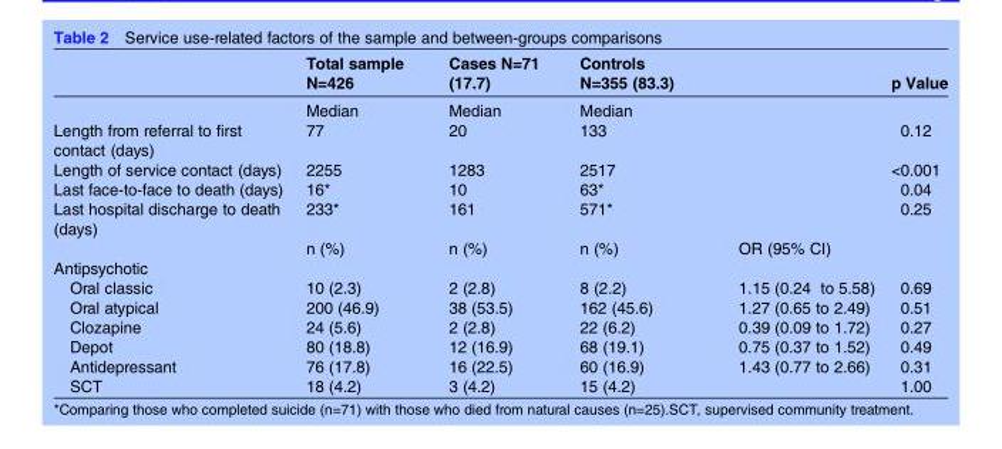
<table><thead><tr><td></td><td>Total sample N=426</td><td>Cases N=71 (17.7)</td><td>Controls N=355 (83.3)</td><td></td><td>p Value</td></tr></thead><tbody><tr><td></td><td>Median</td><td>Median</td><td>Median</td><td></td><td></td></tr><tr><td>Length from referral to first contact (days)</td><td>77</td><td>20</td><td>133</td><td></td><td>0.12</td></tr><tr><td>Length of service contact (days)</td><td>2255</td><td>1283</td><td>2517</td><td></td><td>&lt;0.001</td></tr><tr><td>Last face-to-face to death (days)</td><td>16*</td><td>10</td><td>63*</td><td></td><td>0.04</td></tr><tr><td rowspan="2">Last hospital discharge to death (days)</td><td>233*</td><td>161</td><td>571*</td><td></td><td>0.25</td></tr><tr><td>n (%)</td><td>n (%)</td><td>n (%)</td><td>OR (95% CI)</td><td></td></tr><tr><td colspan="6">Antipsychotic</td></tr><tr><td>Oral classic</td><td>10 (2.3)</td><td>2 (2.8)</td><td>8 (2.2)</td><td>1.15 (0.24 to 5.58)</td><td>0.69</td></tr><tr><td>Oral atypical</td><td>200 (46.9)</td><td>38 (53.5)</td><td>162 (45.6)</td><td>1.27 (0.65 to 2.49)</td><td>0.51</td></tr><tr><td>Clozapine</td><td>24 (5.6)</td><td>2 (2.8)</td><td>22 (6.2)</td><td>0.39 (0.09 to 1.72)</td><td>0.27</td></tr><tr><td>Depot</td><td>80 (18.8)</td><td>12 (16.9)</td><td>68 (19.1)</td><td>0.75 (0.37 to 1.52)</td><td>0.49</td></tr><tr><td>Antidepressant</td><td>76 (17.8)</td><td>16 (22.5)</td><td>60 (16.9)</td><td>1.43 (0.77 to 2.66)</td><td>0.31</td></tr><tr><td>SCT</td><td>18 (4.2)</td><td>3 (4.2)</td><td>15 (4.2)</td><td></td><td>1.00</td></tr></tbody></table>